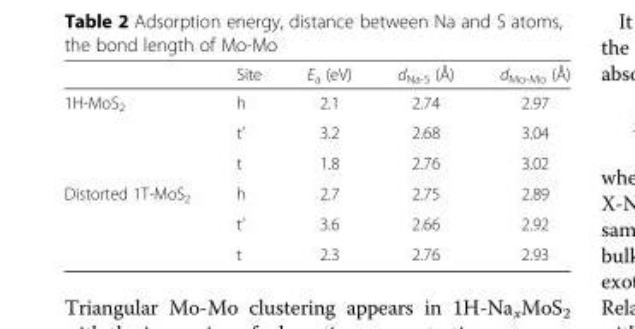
<table><thead><tr><td></td><td>Site</td><td>E<sub>a</sub> (eV)</td><td>d<sub>Na-S</sub> (Å)</td><td>d<sub>Mo-Mo</sub> (Å)</td></tr></thead><tbody><tr><td rowspan="3">1H-MoS<sub>2</sub></td><td>h</td><td>2.1</td><td>2.74</td><td>2.97</td></tr><tr><td>t’</td><td>3.2</td><td>2.68</td><td>3.04</td></tr><tr><td>t</td><td>1.8</td><td>2.76</td><td>3.02</td></tr><tr><td rowspan="3">Distorted 1T-MoS<sub>2</sub></td><td>h</td><td>2.7</td><td>2.75</td><td>2.89</td></tr><tr><td>t’</td><td>3.6</td><td>2.66</td><td>2.92</td></tr><tr><td>t</td><td>2.3</td><td>2.76</td><td>2.93</td></tr></tbody></table>